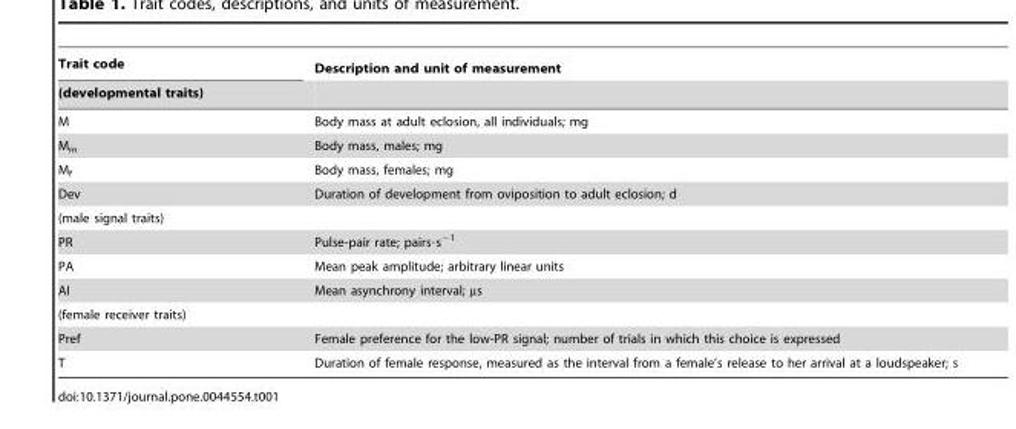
<table><thead><tr><td rowspan="2">Trait code (developmental traits)</td><td rowspan="2">Description and unit of measurement</td></tr><tr></tr></thead><tbody><tr><td>M</td><td>Body mass at adult eclosion, all individuals; mg</td></tr><tr><td>M<sub>m</sub></td><td>Body mass, males; mg</td></tr><tr><td>M<sub>f</sub></td><td>Body mass, females; mg</td></tr><tr><td>Dev</td><td>Duration of development from oviposition to adult eclosion; d</td></tr><tr><td colspan="2">(male signal traits)</td></tr><tr><td>PR</td><td>Pulse-pair rate; pairs·s<sup>−1</sup></td></tr><tr><td>PA</td><td>Mean peak amplitude; arbitrary linear units</td></tr><tr><td>AI</td><td>Mean asynchrony interval; µs</td></tr><tr><td colspan="2">(female receiver traits)</td></tr><tr><td>Pref</td><td>Female preference for the low-PR signal; number of trials in which this choice is expressed</td></tr><tr><td>T</td><td>Duration of female response, measured as the interval from a female’s release to her arrival at a loudspeaker; s</td></tr></tbody></table>